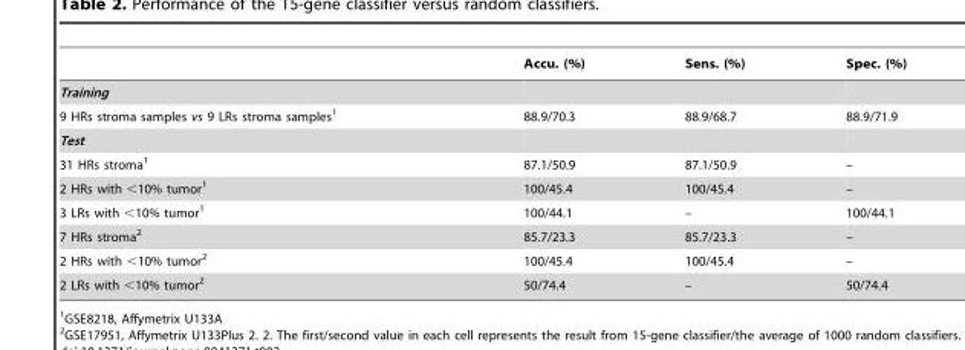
<table><thead><tr><td></td><td>Accu. (%)</td><td>Sens. (%)</td><td>Spec. (%)</td></tr></thead><tbody><tr><td colspan="4">Training</td></tr><tr><td>9 HRs stroma samples vs 9 LRs stroma samples<sup>1</sup></td><td>88.9/70.3</td><td>88.9/68.7</td><td>88.9/71.9</td></tr><tr><td colspan="4">Test</td></tr><tr><td>31 HRs stroma<sup>1</sup></td><td>87.1/50.9</td><td>87.1/50.9</td><td>–</td></tr><tr><td>2 HRs with &lt;10% tumor<sup>1</sup></td><td>100/45.4</td><td>100/45.4</td><td>–</td></tr><tr><td>3 LRs with &lt;10% tumor<sup>1</sup></td><td>100/44.1</td><td>–</td><td>100/44.1</td></tr><tr><td>7 HRs stroma<sup>2</sup></td><td>85.7/23.3</td><td>85.7/23.3</td><td>–</td></tr><tr><td>2 HRs with &lt;10% tumor<sup>2</sup></td><td>100/45.4</td><td>100/45.4</td><td>–</td></tr><tr><td>2 LRs with &lt;10% tumor<sup>2</sup></td><td>50/74.4</td><td>–</td><td>50/74.4</td></tr></tbody></table>